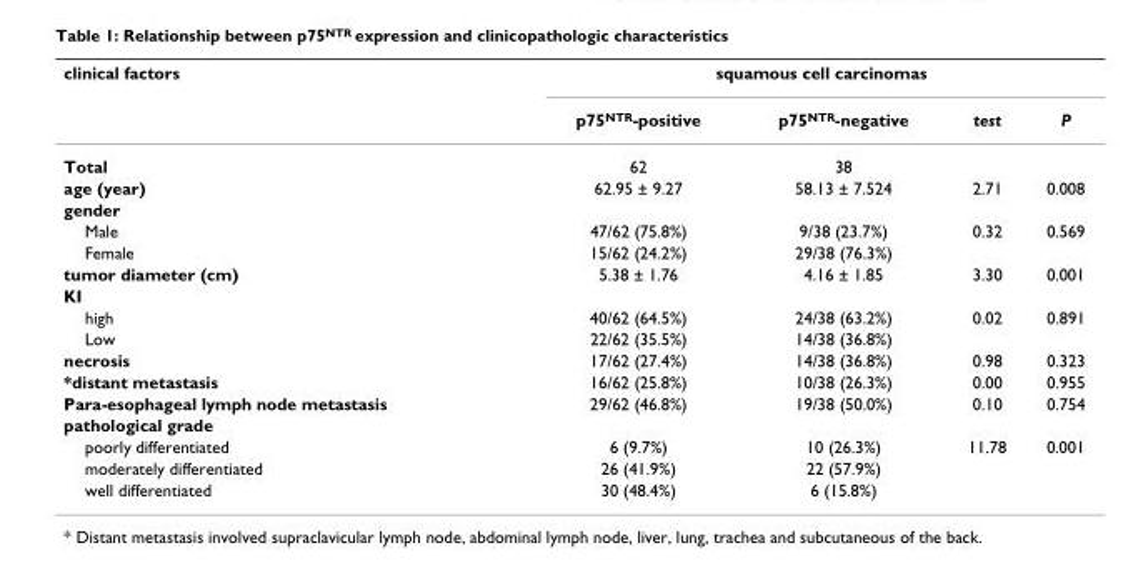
<table><thead><tr><td rowspan="2">clinical factors</td><td colspan="4">squamous cell carcinomas</td></tr><tr><td>p75<sup>NTR</sup>-positive</td><td>p75<sup>NTR</sup>-negative</td><td>test</td><td>P</td></tr></thead><tbody><tr><td>Total</td><td>62</td><td>38</td><td></td><td></td></tr><tr><td>age (year)</td><td>62.95 ± 9.27</td><td>58.13 ± 7.524</td><td>2.71</td><td>0.008</td></tr><tr><td colspan="5">gender</td></tr><tr><td>Male</td><td>47/62 (75.8%)</td><td>9/38 (23.7%)</td><td>0.32</td><td>0.569</td></tr><tr><td>Female</td><td>15/62 (24.2%)</td><td>29/38 (76.3%)</td><td></td><td></td></tr><tr><td>tumor diameter (cm)</td><td>5.38 ± 1.76</td><td>4.16 ± 1.85</td><td>3.30</td><td>0.001</td></tr><tr><td colspan="5">KI</td></tr><tr><td>high</td><td>40/62 (64.5%)</td><td>24/38 (63.2%)</td><td>0.02</td><td>0.891</td></tr><tr><td>Low</td><td>22/62 (35.5%)</td><td>14/38 (36.8%)</td><td></td><td></td></tr><tr><td>necrosis</td><td>17/62 (27.4%)</td><td>14/38 (36.8%)</td><td>0.98</td><td>0.323</td></tr><tr><td>*distant metastasis</td><td>16/62 (25.8%)</td><td>10/38 (26.3%)</td><td>0.00</td><td>0.955</td></tr><tr><td>Para-esophageal lymph node metastasis</td><td>29/62 (46.8%)</td><td>19/38 (50.0%)</td><td>0.10</td><td>0.754</td></tr><tr><td colspan="5">pathological grade</td></tr><tr><td>poorly differentiated</td><td>6 (9.7%)</td><td>10 (26.3%)</td><td>11.78</td><td>0.001</td></tr><tr><td>moderately differentiated</td><td>26 (41.9%)</td><td>22 (57.9%)</td><td></td><td></td></tr><tr><td>well differentiated</td><td>30 (48.4%)</td><td>6 (15.8%)</td><td></td><td></td></tr></tbody></table>